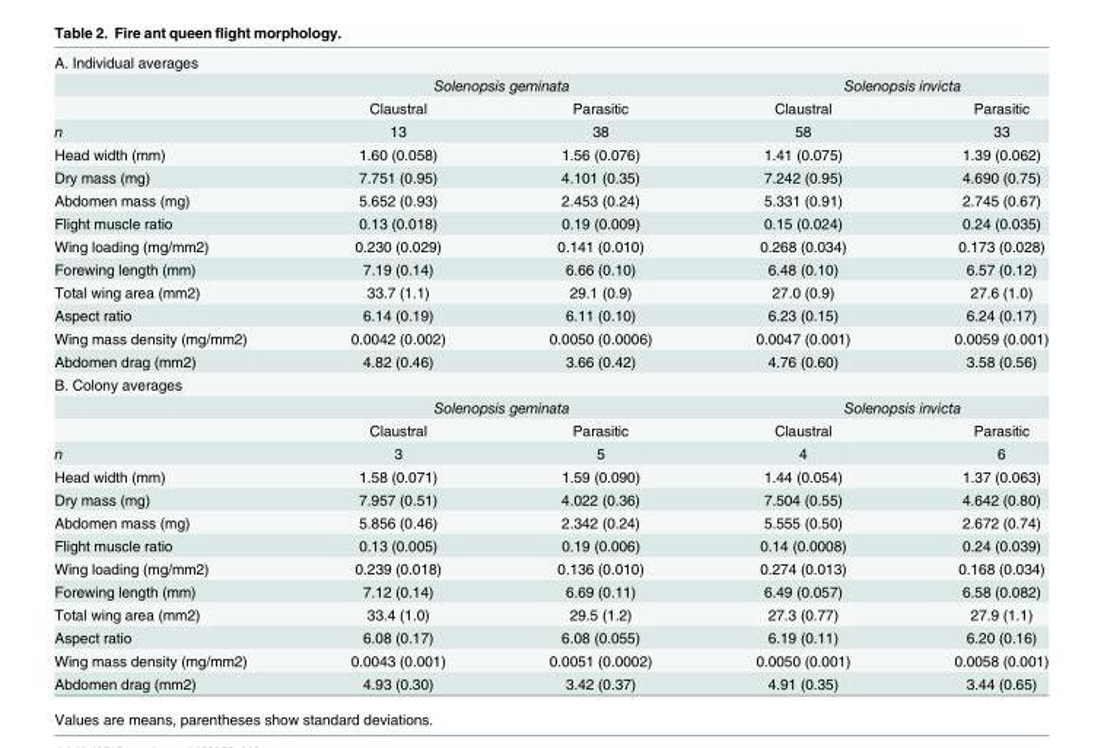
<table><tbody><tr><td colspan="5">A. Individual averages</td></tr><tr><td></td><td colspan="2">Solenopsis geminata</td><td colspan="2">Solenopsis invicta</td></tr><tr><td></td><td>Claustral</td><td>Parasitic</td><td>Claustral</td><td>Parasitic</td></tr><tr><td>n</td><td>13</td><td>38</td><td>58</td><td>33</td></tr><tr><td>Head width (mm)</td><td>1.60 (0.058)</td><td>1.56 (0.076)</td><td>1.41 (0.075)</td><td>1.39 (0.062)</td></tr><tr><td>Dry mass (mg)</td><td>7.751 (0.95)</td><td>4.101 (0.35)</td><td>7.242 (0.95)</td><td>4.690 (0.75)</td></tr><tr><td>Abdomen mass (mg)</td><td>5.652 (0.93)</td><td>2.453 (0.24)</td><td>5.331 (0.91)</td><td>2.745 (0.67)</td></tr><tr><td>Flight muscle ratio</td><td>0.13 (0.018)</td><td>0.19 (0.009)</td><td>0.15 (0.024)</td><td>0.24 (0.035)</td></tr><tr><td>Wing loading (mg/mm2)</td><td>0.230 (0.029)</td><td>0.141 (0.010)</td><td>0.268 (0.034)</td><td>0.173 (0.028)</td></tr><tr><td>Forewing length (mm)</td><td>7.19 (0.14)</td><td>6.66 (0.10)</td><td>6.48 (0.10)</td><td>6.57 (0.12)</td></tr><tr><td>Total wing area (mm2)</td><td>33.7 (1.1)</td><td>29.1 (0.9)</td><td>27.0 (0.9)</td><td>27.6 (1.0)</td></tr><tr><td>Aspect ratio</td><td>6.14 (0.19)</td><td>6.11 (0.10)</td><td>6.23 (0.15)</td><td>6.24 (0.17)</td></tr><tr><td>Wing mass density (mg/mm2)</td><td>0.0042 (0.002)</td><td>0.0050 (0.0006)</td><td>0.0047 (0.001)</td><td>0.0059 (0.001)</td></tr><tr><td>Abdomen drag (mm2)</td><td>4.82 (0.46)</td><td>3.66 (0.42)</td><td>4.76 (0.60)</td><td>3.58 (0.56)</td></tr><tr><td colspan="5">B. Colony averages</td></tr><tr><td></td><td colspan="2">Solenopsis geminata</td><td colspan="2">Solenopsis invicta</td></tr><tr><td></td><td>Claustral</td><td>Parasitic</td><td>Claustral</td><td>Parasitic</td></tr><tr><td>n</td><td>3</td><td>5</td><td>4</td><td>6</td></tr><tr><td>Head width (mm)</td><td>1.58 (0.071)</td><td>1.59 (0.090)</td><td>1.44 (0.054)</td><td>1.37 (0.063)</td></tr><tr><td>Dry mass (mg)</td><td>7.957 (0.51)</td><td>4.022 (0.36)</td><td>7.504 (0.55)</td><td>4.642 (0.80)</td></tr><tr><td>Abdomen mass (mg)</td><td>5.856 (0.46)</td><td>2.342 (0.24)</td><td>5.555 (0.50)</td><td>2.672 (0.74)</td></tr><tr><td>Flight muscle ratio</td><td>0.13 (0.005)</td><td>0.19 (0.006)</td><td>0.14 (0.0008)</td><td>0.24 (0.039)</td></tr><tr><td>Wing loading (mg/mm2)</td><td>0.239 (0.018)</td><td>0.136 (0.010)</td><td>0.274 (0.013)</td><td>0.168 (0.034)</td></tr><tr><td>Forewing length (mm)</td><td>7.12 (0.14)</td><td>6.69 (0.11)</td><td>6.49 (0.057)</td><td>6.58 (0.082)</td></tr><tr><td>Total wing area (mm2)</td><td>33.4 (1.0)</td><td>29.5 (1.2)</td><td>27.3 (0.77)</td><td>27.9 (1.1)</td></tr><tr><td>Aspect ratio</td><td>6.08 (0.17)</td><td>6.08 (0.055)</td><td>6.19 (0.11)</td><td>6.20 (0.16)</td></tr><tr><td>Wing mass density (mg/mm2)</td><td>0.0043 (0.001)</td><td>0.0051 (0.0002)</td><td>0.0050 (0.001)</td><td>0.0058 (0.001)</td></tr><tr><td>Abdomen drag (mm2)</td><td>4.93 (0.30)</td><td>3.42 (0.37)</td><td>4.91 (0.35)</td><td>3.44 (0.65)</td></tr></tbody></table>